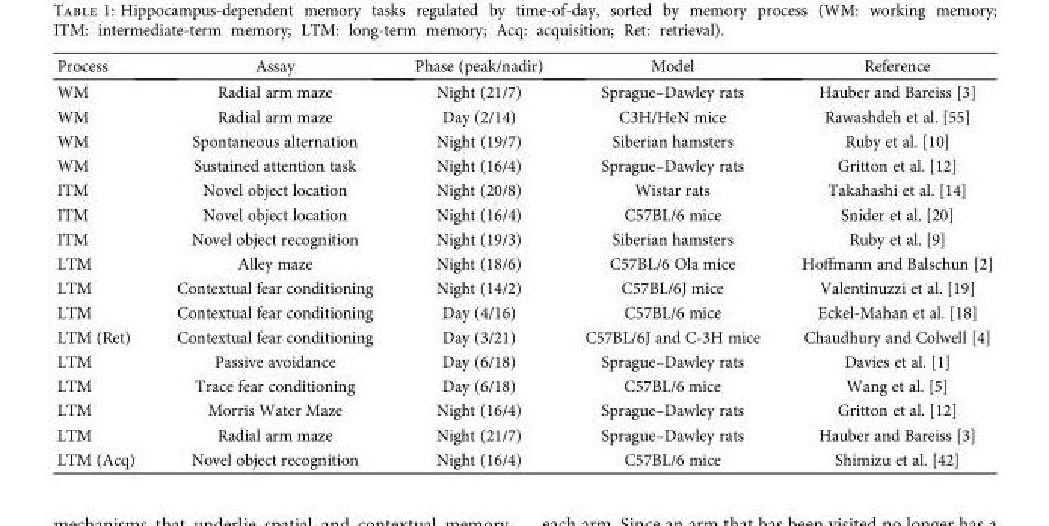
<table><thead><tr><td>Process</td><td>Assay</td><td>Phase (peak/nadir)</td><td>Model</td><td>Reference</td></tr></thead><tbody><tr><td>WM</td><td>Radial arm maze</td><td>Night (21/7)</td><td>Sprague–Dawley rats</td><td>Hauber and Bareiss [3]</td></tr><tr><td>WM</td><td>Radial arm maze</td><td>Day (2/14)</td><td>C3H/HeN mice</td><td>Rawashdeh et al. [55]</td></tr><tr><td>WM</td><td>Spontaneous alternation</td><td>Night (19/7)</td><td>Siberian hamsters</td><td>Ruby et al. [10]</td></tr><tr><td>WM</td><td>Sustained attention task</td><td>Night (16/4)</td><td>Sprague–Dawley rats</td><td>Gritton et al. [12]</td></tr><tr><td>ITM</td><td>Novel object location</td><td>Night (20/8)</td><td>Wistar rats</td><td>Takahashi et al. [14]</td></tr><tr><td>ITM</td><td>Novel object location</td><td>Night (16/4)</td><td>C57BL/6 mice</td><td>Snider et al. [20]</td></tr><tr><td>ITM</td><td>Novel object recognition</td><td>Night (19/3)</td><td>Siberian hamsters</td><td>Ruby et al. [9]</td></tr><tr><td>LTM</td><td>Alley maze</td><td>Night (18/6)</td><td>C57BL/6 Ola mice</td><td>Hoffmann and Balschun [2]</td></tr><tr><td>LTM</td><td>Contextual fear conditioning</td><td>Night (14/2)</td><td>C57BL/6J mice</td><td>Valentinuzzi et al. [19]</td></tr><tr><td>LTM</td><td>Contextual fear conditioning</td><td>Day (4/16)</td><td>C57BL/6 mice</td><td>Eckel-Mahan et al. [18]</td></tr><tr><td>LTM (Ret)</td><td>Contextual fear conditioning</td><td>Day (3/21)</td><td>C57BL/6J and C-3H mice</td><td>Chaudhury and Colwell [4]</td></tr><tr><td>LTM</td><td>Passive avoidance</td><td>Day (6/18)</td><td>Sprague–Dawley rats</td><td>Davies et al. [1]</td></tr><tr><td>LTM</td><td>Trace fear conditioning</td><td>Day (6/18)</td><td>C57BL/6 mice</td><td>Wang et al. [5]</td></tr><tr><td>LTM</td><td>Morris Water Maze</td><td>Night (16/4)</td><td>Sprague–Dawley rats</td><td>Gritton et al. [12]</td></tr><tr><td>LTM</td><td>Radial arm maze</td><td>Night (21/7)</td><td>Sprague–Dawley rats</td><td>Hauber and Bareiss [3]</td></tr><tr><td>LTM (Acq)</td><td>Novel object recognition</td><td>Night (16/4)</td><td>C57BL/6 mice</td><td>Shimizu et al. [42]</td></tr></tbody></table>